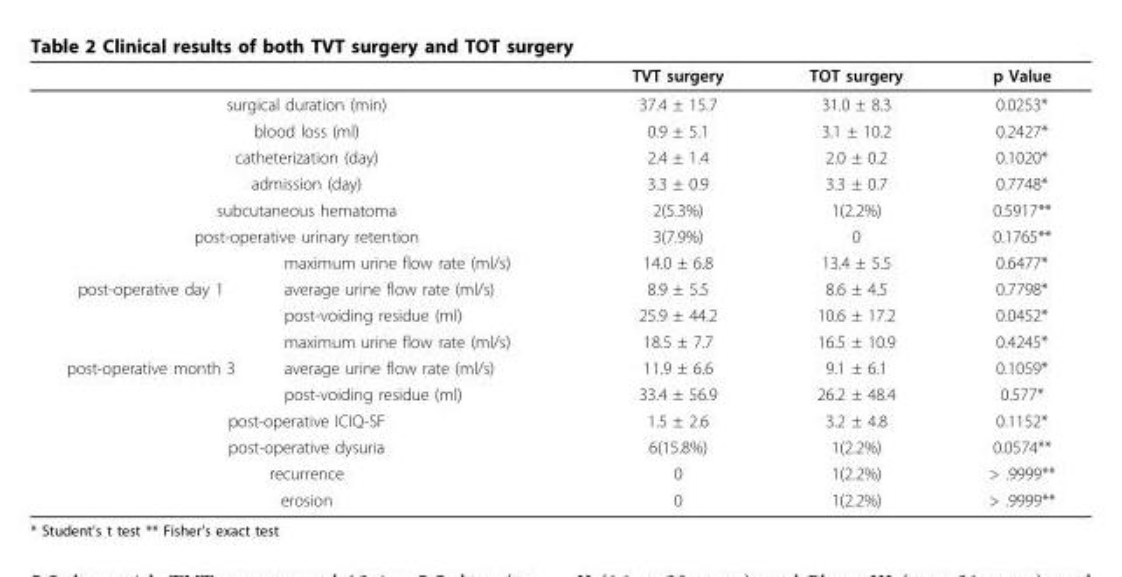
<table><thead><tr><td></td><td></td><td>TVT surgery</td><td>TOT surgery</td><td>p Value</td></tr></thead><tbody><tr><td colspan="2">surgical duration (min)</td><td>37.4 ± 15.7</td><td>31.0 ± 8.3</td><td>0.0253*</td></tr><tr><td colspan="2">blood loss (ml)</td><td>0.9 ± 5.1</td><td>3.1 ± 10.2</td><td>0.2427*</td></tr><tr><td colspan="2">catheterization (day)</td><td>2.4 ± 1.4</td><td>2.0 ± 0.2</td><td>0.1020*</td></tr><tr><td colspan="2">admission (day)</td><td>3.3 ± 0.9</td><td>3.3 ± 0.7</td><td>0.7748*</td></tr><tr><td colspan="2">subcutaneous hematoma</td><td>2(5.3%)</td><td>1(2.2%)</td><td>0.5917**</td></tr><tr><td colspan="2">post-operative urinary retention</td><td>3(7.9%)</td><td>0</td><td>0.1765**</td></tr><tr><td></td><td>maximum urine flow rate (ml/s)</td><td>14.0 ± 6.8</td><td>13.4 ± 5.5</td><td>0.6477*</td></tr><tr><td rowspan="3">post-operative day 1</td><td>average urine flow rate (ml/s)</td><td>8.9 ± 5.5</td><td>8.6 ± 4.5</td><td>0.7798*</td></tr><tr><td>post-voiding residue (ml)</td><td>25.9 ± 44.2</td><td>10.6 ± 17.2</td><td>0.0452*</td></tr><tr><td>maximum urine flow rate (ml/s)</td><td>18.5 ± 7.7</td><td>16.5 ± 10.9</td><td>0.4245*</td></tr><tr><td rowspan="2">post-operative month 3</td><td>average urine flow rate (ml/s)</td><td>11.9 ± 6.6</td><td>9.1 ± 6.1</td><td>0.1059*</td></tr><tr><td>post-voiding residue (ml)</td><td>33.4 ± 56.9</td><td>26.2 ± 48.4</td><td>0.577*</td></tr><tr><td colspan="2">post-operative ICIQ-SF</td><td>1.5 ± 2.6</td><td>3.2 ± 4.8</td><td>0.1152*</td></tr><tr><td colspan="2">post-operative dysuria</td><td>6(15.8%)</td><td>1(2.2%)</td><td>0.0574**</td></tr><tr><td colspan="2">recurrence</td><td>0</td><td>1(2.2%)</td><td>&gt; .9999**</td></tr><tr><td colspan="2">erosion</td><td>0</td><td>1(2.2%)</td><td>&gt; .9999**</td></tr></tbody></table>